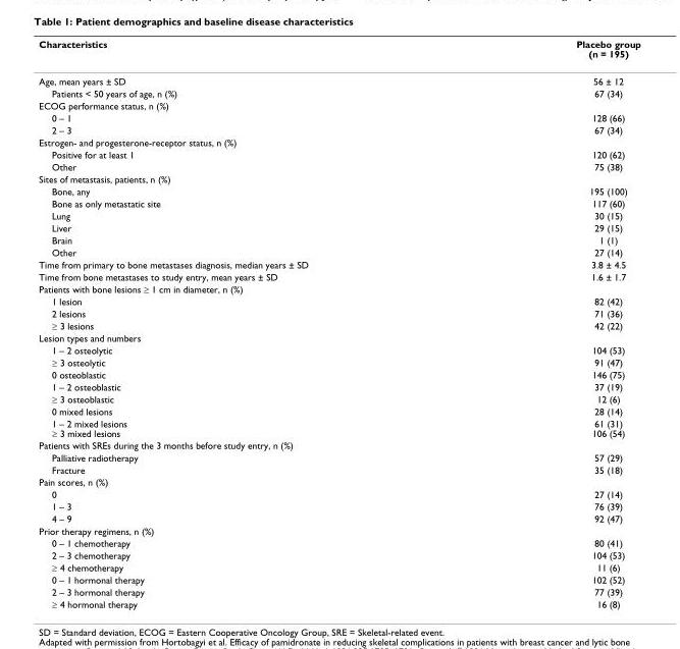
<table><thead><tr><td>Characteristics</td><td>Placebo group (n = 195)</td></tr></thead><tbody><tr><td>Age, mean years ± SD</td><td>56 ± 12</td></tr><tr><td>Patients &lt; 50 years of age, n (%)</td><td>67 (34)</td></tr><tr><td colspan="2">ECOG performance status, n (%)</td></tr><tr><td>0 – 1</td><td>128 (66)</td></tr><tr><td>2 – 3</td><td>67 (34)</td></tr><tr><td colspan="2">Estrogen- and progesterone-receptor status, n (%)</td></tr><tr><td>Positive for at least 1</td><td>120 (62)</td></tr><tr><td>Other</td><td>75 (38)</td></tr><tr><td colspan="2">Sites of metastasis, patients, n (%)</td></tr><tr><td>Bone, any</td><td>195 (100)</td></tr><tr><td>Bone as only metastatic site</td><td>117 (60)</td></tr><tr><td>Lung</td><td>30 (15)</td></tr><tr><td>Liver</td><td>29 (15)</td></tr><tr><td>Brain</td><td>1 (1)</td></tr><tr><td>Other</td><td>27 (14)</td></tr><tr><td>Time from primary to bone metastases diagnosis, median years ± SD</td><td>3.8 ± 4.5</td></tr><tr><td>Time from bone metastases to study entry, mean years ± SD</td><td>1.6 ± 1.7</td></tr><tr><td colspan="2">Patients with bone lesions ≥ 1 cm in diameter, n (%)</td></tr><tr><td>1 lesion</td><td>82 (42)</td></tr><tr><td>2 lesions</td><td>71 (36)</td></tr><tr><td>≥ 3 lesions</td><td>42 (22)</td></tr><tr><td colspan="2">Lesion types and numbers</td></tr><tr><td>1 – 2 osteolytic</td><td>104 (53)</td></tr><tr><td>≥ 3 osteolytic</td><td>91 (47)</td></tr><tr><td>0 osteoblastic</td><td>146 (75)</td></tr><tr><td>1 – 2 osteoblastic</td><td>37 (19)</td></tr><tr><td>≥ 3 osteoblastic</td><td>12 (6)</td></tr><tr><td>0 mixed lesions</td><td>28 (14)</td></tr><tr><td>1 – 2 mixed lesions ≥ 3 mixed lesions</td><td>61 (31) 106 (54)</td></tr><tr><td colspan="2">Patients with SREs during the 3 months before study entry, n (%)</td></tr><tr><td>Palliative radiotherapy</td><td>57 (29)</td></tr><tr><td>Fracture</td><td>35 (18)</td></tr><tr><td colspan="2">Pain scores, n (%)</td></tr><tr><td>0</td><td>27 (14)</td></tr><tr><td>1 – 3</td><td>76 (39)</td></tr><tr><td>4 – 9</td><td>92 (47)</td></tr><tr><td colspan="2">Prior therapy regimens, n (%)</td></tr><tr><td>0 – 1 chemotherapy</td><td>80 (41)</td></tr><tr><td>2 – 3 chemotherapy</td><td>104 (53)</td></tr><tr><td>≥ 4 chemotherapy</td><td>11 (6)</td></tr><tr><td>0 – 1 hormonal therapy</td><td>102 (52)</td></tr><tr><td>2 – 3 hormonal therapy</td><td>77 (39)</td></tr><tr><td>≥ 4 hormonal therapy</td><td>16 (8)</td></tr></tbody></table>